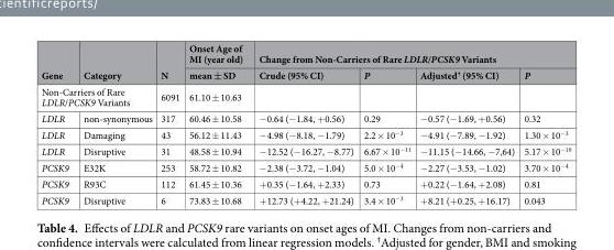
<table><thead><tr><td rowspan="2">Gene</td><td rowspan="2">Category</td><td rowspan="2">N</td><td rowspan="2">Onset Age of MI (year old) mean ± SD</td><td colspan="4">Change from Non-Carriers of Rare LDLR/PCSK9 Variants</td></tr><tr><td>Crude (95% CI)</td><td>P</td><td>Adjusted<sup>†</sup> (95% CI)</td><td>P</td></tr></thead><tbody><tr><td colspan="2">Non-Carriers of Rare LDLR/PCSK9 Variants</td><td>6091</td><td>61.10 ± 10.63</td><td></td><td></td><td></td><td></td></tr><tr><td>LDLR</td><td>non-synonymous</td><td>317</td><td>60.46 ± 10.58</td><td>−0.64 (−1.84, +0.56)</td><td>0.29</td><td>−0.57 (−1.69, +0.56)</td><td>0.32</td></tr><tr><td>LDLR</td><td>Damaging</td><td>43</td><td>56.12 ± 11.43</td><td>−4.98 (−8.18, −1.79)</td><td>2.2 × 10<sup>−3</sup></td><td>−4.91 (−7.89, −1.92)</td><td>1.30 × 10<sup>−3</sup></td></tr><tr><td>LDLR</td><td>Disruptive</td><td>31</td><td>48.58 ± 10.94</td><td>−12.52 (−16.27, −8.77)</td><td>6.67 × 10<sup>−11</sup></td><td>−11.15 (−14.66, −7,64)</td><td>5.17 × 10<sup>−10</sup></td></tr><tr><td>PCSK9</td><td>E32K</td><td>253</td><td>58.72 ± 10.82</td><td>−2.38 (−3.72, −1.04)</td><td>5.0 × 10<sup>−4</sup></td><td>−2.27 (−3.53, −1.02)</td><td>3.70 × 10<sup>−4</sup></td></tr><tr><td>PCSK9</td><td>R93C</td><td>112</td><td>61.45 ± 10.36</td><td>+0.35 (−1.64, +2.33)</td><td>0.73</td><td>+0.22 (−1.64, +2.08)</td><td>0.81</td></tr><tr><td>PCSK9</td><td>Disruptive</td><td>6</td><td>73.83 ± 10.68</td><td>+12.73 (+4.22, +21.24)</td><td>3.4 × 10<sup>−3</sup></td><td>+8.21 (+0.25, +16.17)</td><td>0.043</td></tr></tbody></table>